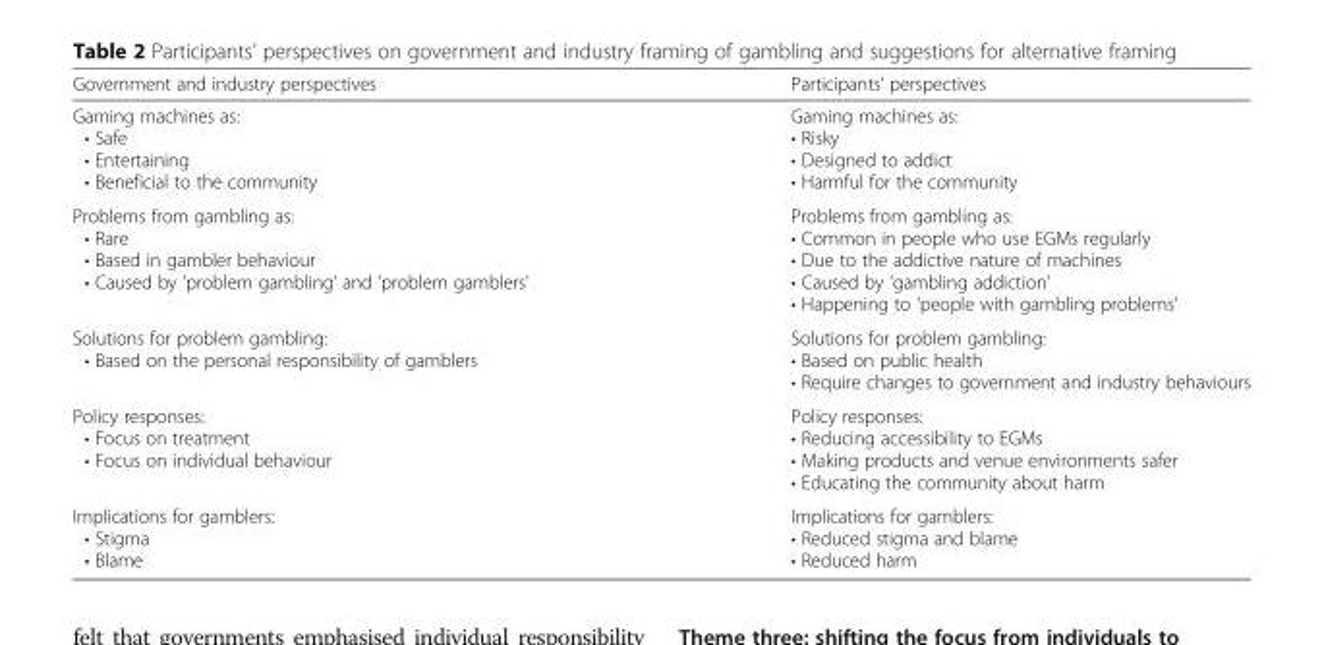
<table><thead><tr><td>Government and industry perspectives</td><td>Participants’ perspectives</td></tr></thead><tbody><tr><td>Gaming machines as: • Safe • Entertaining • Beneficial to the community</td><td>Gaming machines as: • Risky • Designed to addict • Harmful for the community</td></tr><tr><td>Problems from gambling as: • Rare • Based in gambler behaviour • Caused by &#x27;problem gambling&#x27; and &#x27;problem gamblers&#x27;</td><td>Problems from gambling as: • Common in people who use EGMs regularly • Due to the addictive nature of machines • Caused by &#x27;gambling addiction&#x27; • Happening to &#x27;people with gambling problems&#x27;</td></tr><tr><td>Solutions for problem gambling: • Based on the personal responsibility of gamblers</td><td>Solutions for problem gambling: • Based on public health • Require changes to government and industry behaviours</td></tr><tr><td>Policy responses: • Focus on treatment • Focus on individual behaviour</td><td>Policy responses: • Reducing accessibility to EGMs • Making products and venue environments safer • Educating the community about harm</td></tr><tr><td>Implications for gamblers: • Stigma • Blame</td><td>Implications for gamblers: • Reduced stigma and blame • Reduced harm</td></tr></tbody></table>